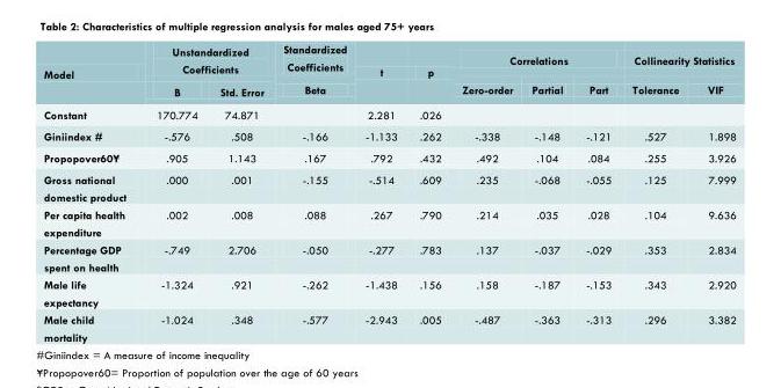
<table><thead><tr><td rowspan="2">Model</td><td colspan="2">Unstandardized Coefficients</td><td rowspan="2">Standardized Coefficients Beta</td><td rowspan="2">t</td><td rowspan="2">p</td><td colspan="3">Correlations</td><td colspan="2">Collinearity Statistics</td></tr><tr><td>B</td><td>Std. Error</td><td>Zero-order</td><td>Partial</td><td>Part</td><td>Tolerance</td><td>VIF</td></tr></thead><tbody><tr><td>Constant</td><td>170.774</td><td>74.871</td><td></td><td>2.281</td><td>.026</td><td></td><td></td><td></td><td></td><td></td></tr><tr><td>Giniindex #</td><td>-.576</td><td>.508</td><td>-.166</td><td>-1.133</td><td>.262</td><td>-.338</td><td>-.148</td><td>-.121</td><td>.527</td><td>1.898</td></tr><tr><td>Propopover60¥</td><td>.905</td><td>1.143</td><td>.167</td><td>.792</td><td>.432</td><td>.492</td><td>.104</td><td>.084</td><td>.255</td><td>3.926</td></tr><tr><td>Gross national domestic product</td><td>.000</td><td>.001</td><td>-.155</td><td>-.514</td><td>.609</td><td>.235</td><td>-.068</td><td>-.055</td><td>.125</td><td>7.999</td></tr><tr><td>Per capita health expenditure</td><td>.002</td><td>.008</td><td>.088</td><td>.267</td><td>.790</td><td>.214</td><td>.035</td><td>.028</td><td>.104</td><td>9.636</td></tr><tr><td>Percentage GDP spent on health</td><td>-.749</td><td>2.706</td><td>-.050</td><td>-.277</td><td>.783</td><td>.137</td><td>-.037</td><td>-.029</td><td>.353</td><td>2.834</td></tr><tr><td>Male life expectancy</td><td>-1.324</td><td>.921</td><td>-.262</td><td>-1.438</td><td>.156</td><td>.158</td><td>-.187</td><td>-.153</td><td>.343</td><td>2.920</td></tr><tr><td>Male child mortality</td><td>-1.024</td><td>.348</td><td>-.577</td><td>-2.943</td><td>.005</td><td>-.487</td><td>-.363</td><td>-.313</td><td>.296</td><td>3.382</td></tr></tbody></table>